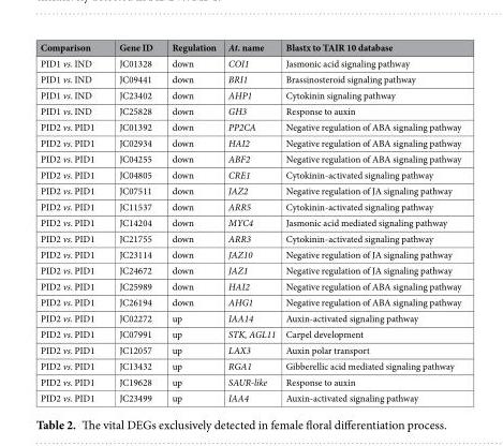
<table><thead><tr><td>Comparison</td><td>Gene ID</td><td>Regulation</td><td>At. name</td><td>Blastx to TAIR 10 database</td></tr></thead><tbody><tr><td>PID1 vs. IND</td><td>JC01328</td><td>down</td><td>COI1</td><td>Jasmonic acid signaling pathway</td></tr><tr><td>PID1 vs. IND</td><td>JC09441</td><td>down</td><td>BRI1</td><td>Brassinosteroid signaling pathway</td></tr><tr><td>PID1 vs. IND</td><td>JC23402</td><td>down</td><td>AHP1</td><td>Cytokinin signaling pathway</td></tr><tr><td>PID1 vs. IND</td><td>JC25828</td><td>down</td><td>GH3</td><td>Response to auxin</td></tr><tr><td>PID2 vs. PID1</td><td>JC01392</td><td>down</td><td>PP2CA</td><td>Negative regulation of ABA signaling pathway</td></tr><tr><td>PID2 vs. PID1</td><td>JC02934</td><td>down</td><td>HAI2</td><td>Negative regulation of ABA signaling pathway</td></tr><tr><td>PID2 vs. PID1</td><td>JC04255</td><td>down</td><td>ABF2</td><td>Negative regulation of ABA signaling pathway</td></tr><tr><td>PID2 vs. PID1</td><td>JC04805</td><td>down</td><td>CRE1</td><td>Cytokinin-activated signaling pathway</td></tr><tr><td>PID2 vs. PID1</td><td>JC07511</td><td>down</td><td>JAZ2</td><td>Negative regulation of JA signaling pathway</td></tr><tr><td>PID2 vs. PID1</td><td>JC11537</td><td>down</td><td>ARR5</td><td>Cytokinin-activated signaling pathway</td></tr><tr><td>PID2 vs. PID1</td><td>JC14204</td><td>down</td><td>MYC4</td><td>Jasmonic acid mediated signaling pathway</td></tr><tr><td>PID2 vs. PID1</td><td>JC21755</td><td>down</td><td>ARR3</td><td>Cytokinin-activated signaling pathway</td></tr><tr><td>PID2 vs. PID1</td><td>JC23114</td><td>down</td><td>JAZ10</td><td>Negative regulation of JA signaling pathway</td></tr><tr><td>PID2 vs. PID1</td><td>JC24672</td><td>down</td><td>JAZ1</td><td>Negative regulation of JA signaling pathway</td></tr><tr><td>PID2 vs. PID1</td><td>JC25989</td><td>down</td><td>HAI2</td><td>Negative regulation of ABA signaling pathway</td></tr><tr><td>PID2 vs. PID1</td><td>JC26194</td><td>down</td><td>AHG1</td><td>Negative regulation of ABA signaling pathway</td></tr><tr><td>PID2 vs. PID1</td><td>JC02272</td><td>up</td><td>IAA14</td><td>Auxin-activated signaling pathway</td></tr><tr><td>PID2 vs. PID1</td><td>JC07991</td><td>up</td><td>STK, AGL11</td><td>Carpel development</td></tr><tr><td>PID2 vs. PID1</td><td>JC12057</td><td>up</td><td>LAX3</td><td>Auxin polar transport</td></tr><tr><td>PID2 vs. PID1</td><td>JC13432</td><td>up</td><td>RGA1</td><td>Gibberellic acid mediated signaling pathway</td></tr><tr><td>PID2 vs. PID1</td><td>JC19628</td><td>up</td><td>SAUR-like</td><td>Response to auxin</td></tr><tr><td>PID2 vs. PID1</td><td>JC23499</td><td>up</td><td>IAA4</td><td>Auxin-activated signaling pathway</td></tr></tbody></table>